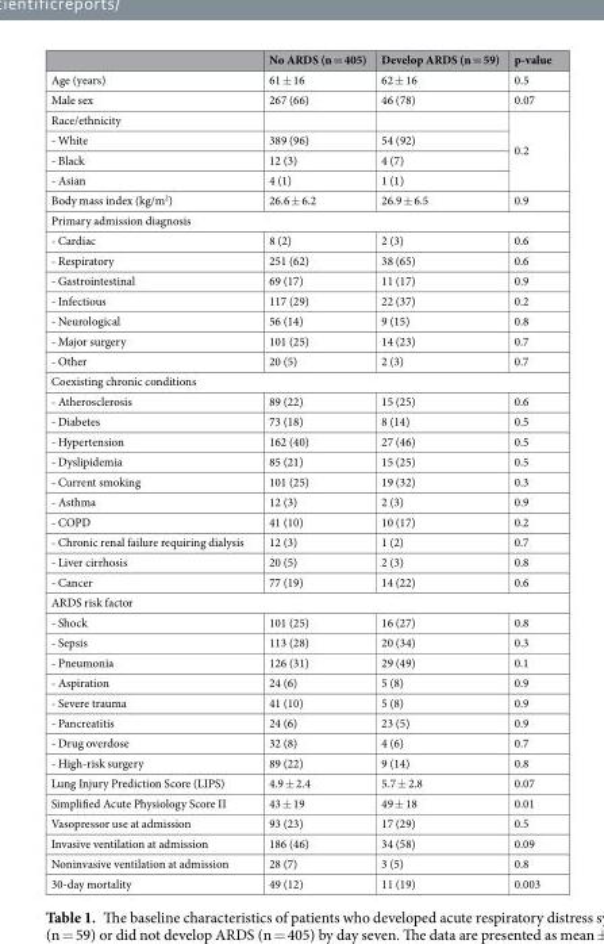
<table><thead><tr><td></td><td>No ARDS (n = 405)</td><td>Develop ARDS (n = 59)</td><td>p-value</td></tr></thead><tbody><tr><td>Age (years)</td><td>61 ± 16</td><td>62 ± 16</td><td>0.5</td></tr><tr><td>Male sex</td><td>267 (66)</td><td>46 (78)</td><td>0.07</td></tr><tr><td colspan="3">Race/ethnicity</td><td rowspan="4">0.2</td></tr><tr><td>- White</td><td>389 (96)</td><td>54 (92)</td></tr><tr><td>- Black</td><td>12 (3)</td><td>4 (7)</td></tr><tr><td>- Asian</td><td>4 (1)</td><td>1 (1)</td></tr><tr><td>Body mass index (kg/m<sup>2</sup>)</td><td>26.6 ± 6.2</td><td>26.9 ± 6.5</td><td>0.9</td></tr><tr><td colspan="4">Primary admission diagnosis</td></tr><tr><td>- Cardiac</td><td>8 (2)</td><td>2 (3)</td><td>0.6</td></tr><tr><td>- Respiratory</td><td>251 (62)</td><td>38 (65)</td><td>0.6</td></tr><tr><td>- Gastrointestinal</td><td>69 (17)</td><td>11 (17)</td><td>0.9</td></tr><tr><td>- Infectious</td><td>117 (29)</td><td>22 (37)</td><td>0.2</td></tr><tr><td>- Neurological</td><td>56 (14)</td><td>9 (15)</td><td>0.8</td></tr><tr><td>- Major surgery</td><td>101 (25)</td><td>14 (23)</td><td>0.7</td></tr><tr><td>- Other</td><td>20 (5)</td><td>2 (3)</td><td>0.7</td></tr><tr><td colspan="4">Coexisting chronic conditions</td></tr><tr><td>- Atherosclerosis</td><td>89 (22)</td><td>15 (25)</td><td>0.6</td></tr><tr><td>- Diabetes</td><td>73 (18)</td><td>8 (14)</td><td>0.5</td></tr><tr><td>- Hypertension</td><td>162 (40)</td><td>27 (46)</td><td>0.5</td></tr><tr><td>- Dyslipidemia</td><td>85 (21)</td><td>15 (25)</td><td>0.5</td></tr><tr><td>- Current smoking</td><td>101 (25)</td><td>19 (32)</td><td>0.3</td></tr><tr><td>- Asthma</td><td>12 (3)</td><td>2 (3)</td><td>0.9</td></tr><tr><td>- COPD</td><td>41 (10)</td><td>10 (17)</td><td>0.2</td></tr><tr><td>- Chronic renal failure requiring dialysis</td><td>12 (3)</td><td>1 (2)</td><td>0.7</td></tr><tr><td>- Liver cirrhosis</td><td>20 (5)</td><td>2 (3)</td><td>0.8</td></tr><tr><td>- Cancer</td><td>77 (19)</td><td>14 (22)</td><td>0.6</td></tr><tr><td colspan="4">ARDS risk factor</td></tr><tr><td>- Shock</td><td>101 (25)</td><td>16 (27)</td><td>0.8</td></tr><tr><td>- Sepsis</td><td>113 (28)</td><td>20 (34)</td><td>0.3</td></tr><tr><td>- Pneumonia</td><td>126 (31)</td><td>29 (49)</td><td>0.1</td></tr><tr><td>- Aspiration</td><td>24 (6)</td><td>5 (8)</td><td>0.9</td></tr><tr><td>- Severe trauma</td><td>41 (10)</td><td>5 (8)</td><td>0.9</td></tr><tr><td>- Pancreatitis</td><td>24 (6)</td><td>23 (5)</td><td>0.9</td></tr><tr><td>- Drug overdose</td><td>32 (8)</td><td>4 (6)</td><td>0.7</td></tr><tr><td>- High-risk surgery</td><td>89 (22)</td><td>9 (14)</td><td>0.8</td></tr><tr><td>Lung Injury Prediction Score (LIPS)</td><td>4.9 ± 2.4</td><td>5.7 ± 2.8</td><td>0.07</td></tr><tr><td>Simplified Acute Physiology Score II</td><td>43 ± 19</td><td>49 ± 18</td><td>0.01</td></tr><tr><td>Vasopressor use at admission</td><td>93 (23)</td><td>17 (29)</td><td>0.5</td></tr><tr><td>Invasive ventilation at admission</td><td>186 (46)</td><td>34 (58)</td><td>0.09</td></tr><tr><td>Noninvasive ventilation at admission</td><td>28 (7)</td><td>3 (5)</td><td>0.8</td></tr><tr><td>30-day mortality</td><td>49 (12)</td><td>11 (19)</td><td>0.003</td></tr></tbody></table>